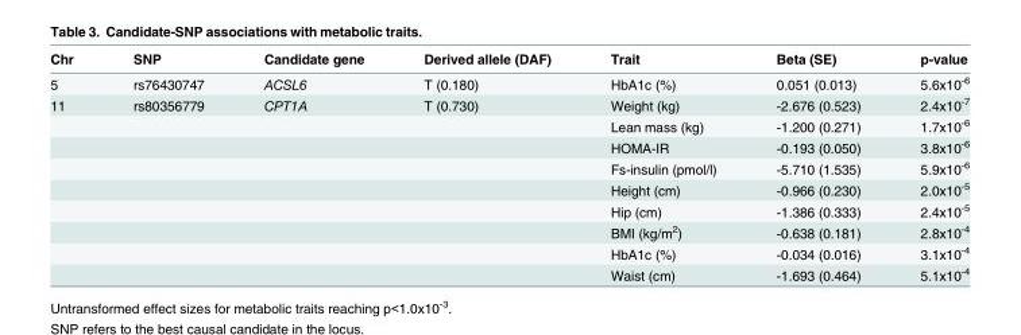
<table><thead><tr><td>Chr</td><td>SNP</td><td>Candidate gene</td><td>Derived allele (DAF)</td><td>Trait</td><td>Beta (SE)</td><td>p-value</td></tr></thead><tbody><tr><td>5</td><td>rs76430747</td><td>ACSL6</td><td>T (0.180)</td><td>HbA1c (%)</td><td>0.051 (0.013)</td><td>5.6x10<sup>-6</sup></td></tr><tr><td rowspan="9">11</td><td>rs80356779</td><td>CPT1A</td><td>T (0.730)</td><td>Weight (kg)</td><td>-2.676 (0.523)</td><td>2.4x10<sup>-7</sup></td></tr><tr><td></td><td></td><td></td><td>Lean mass (kg)</td><td>-1.200 (0.271)</td><td>1.7x10<sup>-6</sup></td></tr><tr><td></td><td></td><td></td><td>HOMA-IR</td><td>-0.193 (0.050)</td><td>3.8x10<sup>-6</sup></td></tr><tr><td></td><td></td><td></td><td>Fs-insulin (pmol/l)</td><td>-5.710 (1.535)</td><td>5.9x10<sup>-6</sup></td></tr><tr><td></td><td></td><td></td><td>Height (cm)</td><td>-0.966 (0.230)</td><td>2.0x10<sup>-5</sup></td></tr><tr><td></td><td></td><td></td><td>Hip (cm)</td><td>-1.386 (0.333)</td><td>2.4x10<sup>-5</sup></td></tr><tr><td></td><td></td><td></td><td>BMI (kg/m<sup>2</sup>)</td><td>-0.638 (0.181)</td><td>2.8x10<sup>-4</sup></td></tr><tr><td></td><td></td><td></td><td>HbA1c (%)</td><td>-0.034 (0.016)</td><td>3.1x10<sup>-4</sup></td></tr><tr><td></td><td></td><td></td><td>Waist (cm)</td><td>-1.693 (0.464)</td><td>5.1x10<sup>-4</sup></td></tr></tbody></table>